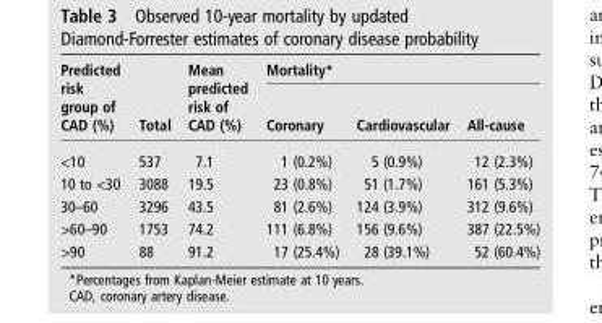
<table><thead><tr><td rowspan="2">Predicted risk group of CAD (%)</td><td rowspan="2">Total</td><td rowspan="2">Mean predicted risk of CAD (%)</td><td colspan="3">Mortality*</td></tr><tr><td>Coronary</td><td>Cardiovascular</td><td>All-cause</td></tr></thead><tbody><tr><td>&lt;10</td><td>537</td><td>7.1</td><td>1 (0.2%)</td><td>5 (0.9%)</td><td>12 (2.3%)</td></tr><tr><td>10 to &lt;30</td><td>3088</td><td>19.5</td><td>23 (0.8%)</td><td>51 (1.7%)</td><td>161 (5.3%)</td></tr><tr><td>30–60</td><td>3296</td><td>43.5</td><td>81 (2.6%)</td><td>124 (3.9%)</td><td>312 (9.6%)</td></tr><tr><td>&gt;60–90</td><td>1753</td><td>74.2</td><td>111 (6.8%)</td><td>156 (9.6%)</td><td>387 (22.5%)</td></tr><tr><td>&gt;90</td><td>88</td><td>91.2</td><td>17 (25.4%)</td><td>28 (39.1%)</td><td>52 (60.4%)</td></tr></tbody></table>